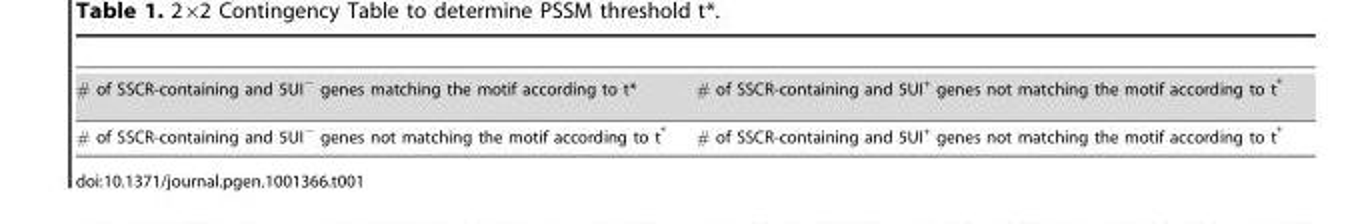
<table><tbody><tr><td># of SSCR-containing and 5UI<sup>−</sup> genes matching the motif according to t*</td><td># of SSCR-containing and 5UI<sup>+</sup> genes not matching the motif according to t*</td></tr><tr><td># of SSCR-containing and 5UI<sup>−</sup> genes not matching the motif according to t*</td><td># of SSCR-containing and 5UI<sup>+</sup> genes not matching the motif according to t*</td></tr></tbody></table>